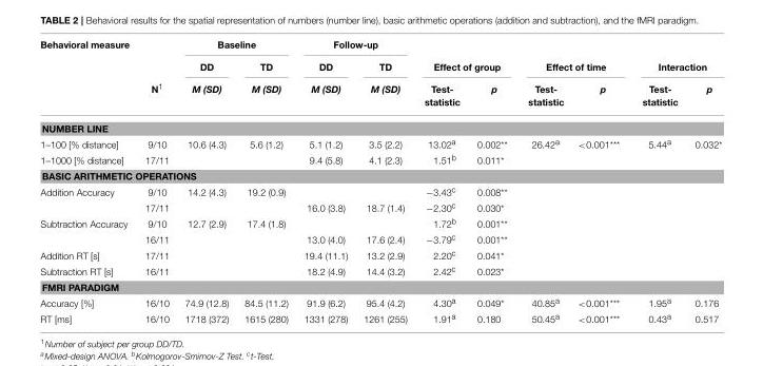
<table><thead><tr><td rowspan="3">Behavioral measure</td><td rowspan="3">N<sup>1</sup></td><td colspan="2">Baseline</td><td colspan="2">Follow-up</td><td></td><td></td><td></td><td></td><td></td><td></td></tr><tr><td rowspan="2">DD M (SD)</td><td rowspan="2">TD M (SD)</td><td rowspan="2">DD M (SD)</td><td rowspan="2">TD M (SD)</td><td colspan="2">Effect of group</td><td colspan="2">Effect of time</td><td colspan="2">Interaction</td></tr><tr><td>Test- statistic</td><td>p</td><td>Test- statistic</td><td>p</td><td>Test- statistic</td><td>p</td></tr></thead><tbody><tr><td colspan="12">NUMBER LINE</td></tr><tr><td>1–100 [% distance]</td><td>9/10</td><td>10.6 (4.3)</td><td>5.6 (1.2)</td><td>5.1 (1.2)</td><td>3.5 (2.2)</td><td>13.02<sup>a</sup></td><td>0.002**</td><td>26.42<sup>a</sup></td><td>&lt;0.001***</td><td>5.44<sup>a</sup></td><td>0.032*</td></tr><tr><td>1–1000 [% distance]</td><td>17/11</td><td></td><td></td><td>9.4 (5.8)</td><td>4.1 (2.3)</td><td>1.51<sup>b</sup></td><td>0.011*</td><td></td><td></td><td></td><td></td></tr><tr><td colspan="12">BASIC ARITHMETIC OPERATIONS</td></tr><tr><td rowspan="2">Addition Accuracy</td><td>9/10</td><td>14.2 (4.3)</td><td>19.2 (0.9)</td><td></td><td></td><td>−3.43<sup>c</sup></td><td>0.008**</td><td></td><td></td><td></td><td></td></tr><tr><td>17/11</td><td></td><td></td><td>16.0 (3.8)</td><td>18.7 (1.4)</td><td>−2.30<sup>c</sup></td><td>0.030*</td><td></td><td></td><td></td><td></td></tr><tr><td rowspan="2">Subtraction Accuracy</td><td>9/10</td><td>12.7 (2.9)</td><td>17.4 (1.8)</td><td></td><td></td><td>1.72<sup>b</sup></td><td>0.001**</td><td></td><td></td><td></td><td></td></tr><tr><td>16/11</td><td></td><td></td><td>13.0 (4.0)</td><td>17.6 (2.4)</td><td>−3.79<sup>c</sup></td><td>0.001**</td><td></td><td></td><td></td><td></td></tr><tr><td>Addition RT [s]</td><td>17/11</td><td></td><td></td><td>19.4 (11.1)</td><td>13.2 (2.9)</td><td>2.20<sup>c</sup></td><td>0.041*</td><td></td><td></td><td></td><td></td></tr><tr><td>Subtraction RT [s]</td><td>16/11</td><td></td><td></td><td>18.2 (4.9)</td><td>14.4 (3.2)</td><td>2.42<sup>c</sup></td><td>0.023*</td><td></td><td></td><td></td><td></td></tr><tr><td colspan="12">FMRI PARADIGM</td></tr><tr><td>Accuracy [%]</td><td>16/10</td><td>74.9 (12.8)</td><td>84.5 (11.2)</td><td>91.9 (6.2)</td><td>95.4 (4.2)</td><td>4.30<sup>a</sup></td><td>0.049*</td><td>40.85<sup>a</sup></td><td>&lt;0.001***</td><td>1.95<sup>a</sup></td><td>0.176</td></tr><tr><td>RT [ms]</td><td>16/10</td><td>1718 (372)</td><td>1615 (280)</td><td>1331 (278)</td><td>1261 (255)</td><td>1.91<sup>a</sup></td><td>0.180</td><td>50.45<sup>a</sup></td><td>&lt;0.001***</td><td>0.43<sup>a</sup></td><td>0.517</td></tr></tbody></table>